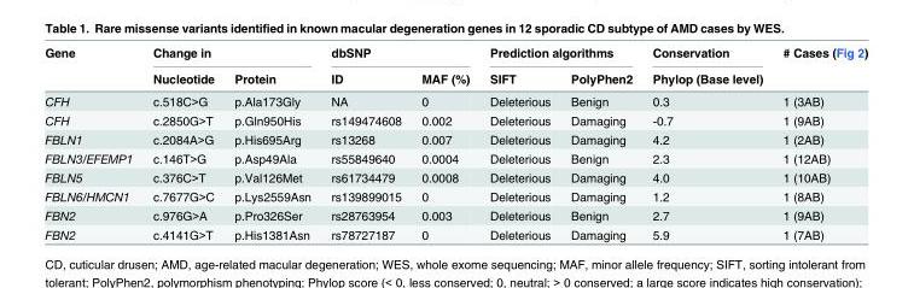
<table><thead><tr><td rowspan="2">Gene</td><td colspan="2">Change in</td><td colspan="2">dbSNP</td><td colspan="2">Prediction algorithms</td><td rowspan="2">Conservation Phylop (Base level)</td><td rowspan="2"># Cases (Fig 2)</td></tr><tr><td>Nucleotide</td><td>Protein</td><td>ID</td><td>MAF (%)</td><td>SIFT</td><td>PolyPhen2</td></tr></thead><tbody><tr><td>CFH</td><td>c.518C&gt;G</td><td>p.Ala173Gly</td><td>NA</td><td>0</td><td>Deleterious</td><td>Benign</td><td>0.3</td><td>1 (3AB)</td></tr><tr><td>CFH</td><td>c.2850G&gt;T</td><td>p.Gln950His</td><td>rs149474608</td><td>0.002</td><td>Deleterious</td><td>Damaging</td><td>-0.7</td><td>1 (9AB)</td></tr><tr><td>FBLN1</td><td>c.2084A&gt;G</td><td>p.His695Arg</td><td>rs13268</td><td>0.007</td><td>Deleterious</td><td>Damaging</td><td>4.2</td><td>1 (2AB)</td></tr><tr><td>FBLN3/EFEMP1</td><td>c.146T&gt;G</td><td>p.Asp49Ala</td><td>rs55849640</td><td>0.0004</td><td>Deleterious</td><td>Benign</td><td>2.3</td><td>1 (12AB)</td></tr><tr><td>FBLN5</td><td>c.376C&gt;T</td><td>p.Val126Met</td><td>rs61734479</td><td>0.0008</td><td>Deleterious</td><td>Damaging</td><td>4.0</td><td>1 (10AB)</td></tr><tr><td>FBLN6/HMCN1</td><td>c.7677G&gt;C</td><td>p.Lys2559Asn</td><td>rs139899015</td><td>0</td><td>Deleterious</td><td>Damaging</td><td>1.2</td><td>1 (8AB)</td></tr><tr><td>FBN2</td><td>c.976G&gt;A</td><td>p.Pro326Ser</td><td>rs28763954</td><td>0.003</td><td>Deleterious</td><td>Benign</td><td>2.7</td><td>1 (9AB)</td></tr><tr><td>FBN2</td><td>c.4141G&gt;T</td><td>p.His1381Asn</td><td>rs78727187</td><td>0</td><td>Deleterious</td><td>Damaging</td><td>5.9</td><td>1 (7AB)</td></tr></tbody></table>